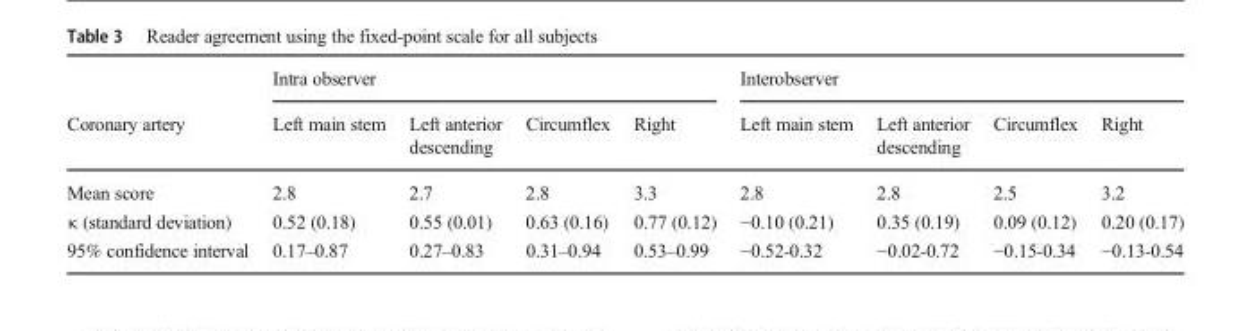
<table><thead><tr><td rowspan="2">Coronary artery</td><td colspan="4">Intra observer</td><td colspan="4">Interobserver</td></tr><tr><td>Left main stem</td><td>Left anterior descending</td><td>Circumflex</td><td>Right</td><td>Left main stem</td><td>Left anterior descending</td><td>Circumflex</td><td>Right</td></tr></thead><tbody><tr><td>Mean score</td><td>2.8</td><td>2.7</td><td>2.8</td><td>3.3</td><td>2.8</td><td>2.8</td><td>2.5</td><td>3.2</td></tr><tr><td>κ (standard deviation)</td><td>0.52 (0.18)</td><td>0.55 (0.01)</td><td>0.63 (0.16)</td><td>0.77 (0.12)</td><td>−0.10 (0.21)</td><td>0.35 (0.19)</td><td>0.09 (0.12)</td><td>0.20 (0.17)</td></tr><tr><td>95% confidence interval</td><td>0.17–0.87</td><td>0.27–0.83</td><td>0.31–0.94</td><td>0.53–0.99</td><td>−0.52-0.32</td><td>−0.02-0.72</td><td>−0.15-0.34</td><td>−0.13-0.54</td></tr></tbody></table>